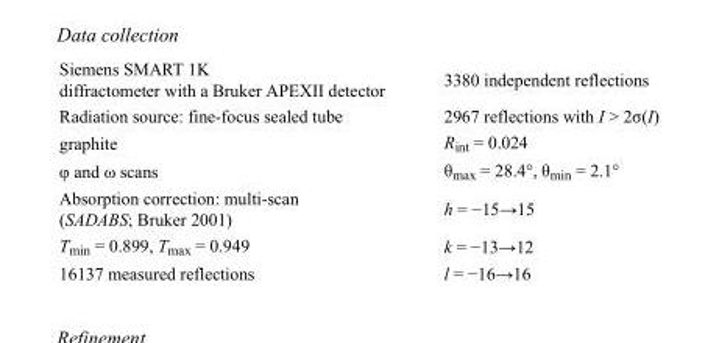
<table><tbody><tr><td>Siemens SMART 1K diffractometer with a Bruker APEXII detector</td><td>3380 independent reflections</td></tr><tr><td>Radiation source: fine-focus sealed tube</td><td>2967 reflections with I &gt; 2σ(I)</td></tr><tr><td>graphite</td><td>R<sub>int</sub> = 0.024</td></tr><tr><td>φ and ω scans</td><td>θ<sub>max</sub> = 28.4°, θ<sub>min</sub> = 2.1°</td></tr><tr><td>Absorption correction: multi-scan (SADABS; Bruker 2001)</td><td>h = −15→15</td></tr><tr><td>T<sub>min</sub> = 0.899, T<sub>max</sub> = 0.949</td><td>k = −13→12</td></tr><tr><td>16137 measured reflections</td><td>l = −16→16</td></tr></tbody></table>